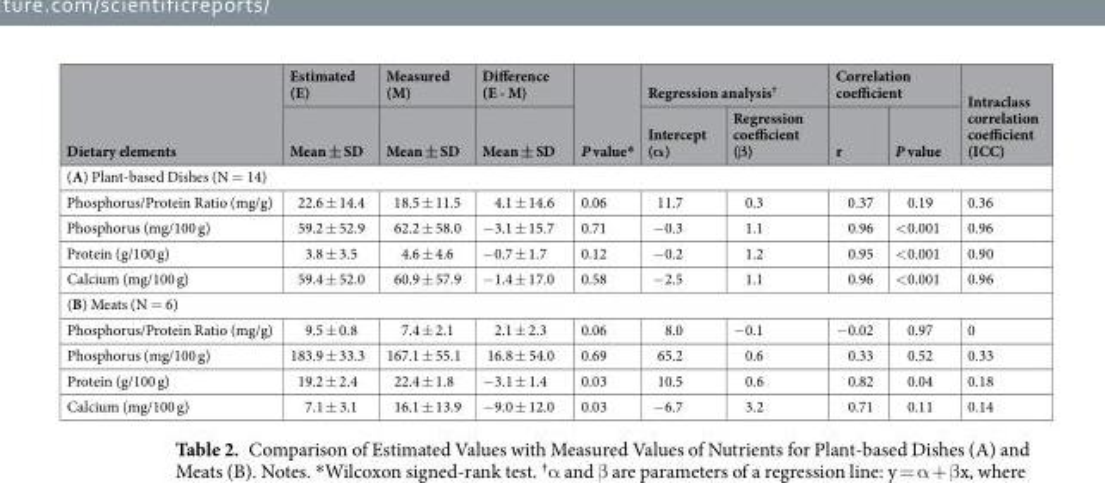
<table><thead><tr><td rowspan="2">Dietary elements</td><td rowspan="2">Estimated (E) Mean ± SD</td><td rowspan="2">Measured (M) Mean ± SD</td><td rowspan="2">Difference (E - M) Mean ± SD</td><td rowspan="2">P value*</td><td colspan="2">Regression analysis<sup>†</sup></td><td colspan="2">Correlation coefficient</td><td rowspan="2">Intraclass correlation coefficient (ICC)</td></tr><tr><td>Intercept (α)</td><td>Regression coefficient (β)</td><td>r</td><td>P value</td></tr></thead><tbody><tr><td colspan="10">(A) Plant-based Dishes (N = 14)</td></tr><tr><td>Phosphorus/Protein Ratio (mg/g)</td><td>22.6 ± 14.4</td><td>18.5 ± 11.5</td><td>4.1 ± 14.6</td><td>0.06</td><td>11.7</td><td>0.3</td><td>0.37</td><td>0.19</td><td>0.36</td></tr><tr><td>Phosphorus (mg/100 g)</td><td>59.2 ± 52.9</td><td>62.2 ± 58.0</td><td>−3.1 ± 15.7</td><td>0.71</td><td>−0.3</td><td>1.1</td><td>0.96</td><td>&lt;0.001</td><td>0.96</td></tr><tr><td>Protein (g/100 g)</td><td>3.8 ± 3.5</td><td>4.6 ± 4.6</td><td>−0.7 ± 1.7</td><td>0.12</td><td>−0.2</td><td>1.2</td><td>0.95</td><td>&lt;0.001</td><td>0.90</td></tr><tr><td>Calcium (mg/100 g)</td><td>59.4 ± 52.0</td><td>60.9 ± 57.9</td><td>−1.4 ± 17.0</td><td>0.58</td><td>−2.5</td><td>1.1</td><td>0.96</td><td>&lt;0.001</td><td>0.96</td></tr><tr><td colspan="10">(B) Meats (N = 6)</td></tr><tr><td>Phosphorus/Protein Ratio (mg/g)</td><td>9.5 ± 0.8</td><td>7.4 ± 2.1</td><td>2.1 ± 2.3</td><td>0.06</td><td>8.0</td><td>−0.1</td><td>−0.02</td><td>0.97</td><td>0</td></tr><tr><td>Phosphorus (mg/100 g)</td><td>183.9 ± 33.3</td><td>167.1 ± 55.1</td><td>16.8 ± 54.0</td><td>0.69</td><td>65.2</td><td>0.6</td><td>0.33</td><td>0.52</td><td>0.33</td></tr><tr><td>Protein (g/100 g)</td><td>19.2 ± 2.4</td><td>22.4 ± 1.8</td><td>−3.1 ± 1.4</td><td>0.03</td><td>10.5</td><td>0.6</td><td>0.82</td><td>0.04</td><td>0.18</td></tr><tr><td>Calcium (mg/100 g)</td><td>7.1 ± 3.1</td><td>16.1 ± 13.9</td><td>−9.0 ± 12.0</td><td>0.03</td><td>−6.7</td><td>3.2</td><td>0.71</td><td>0.11</td><td>0.14</td></tr></tbody></table>